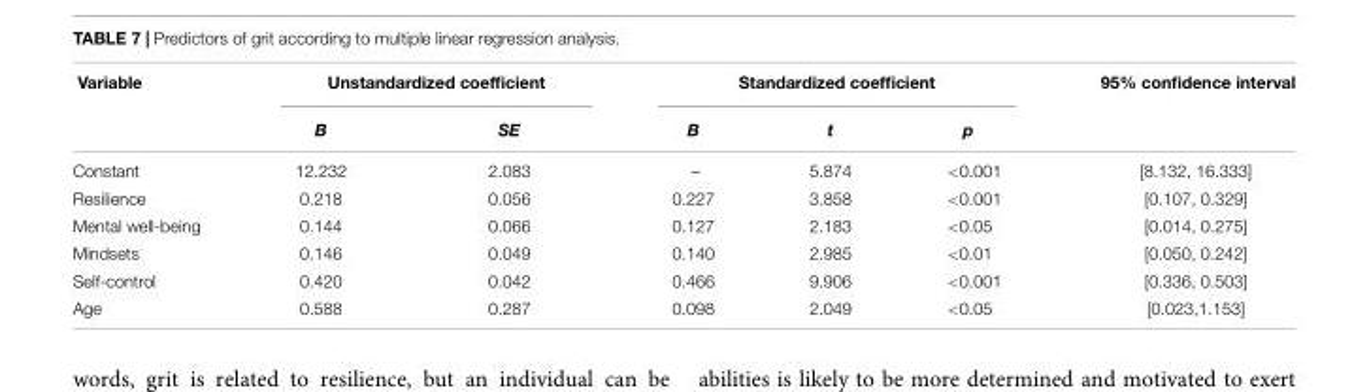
<table><thead><tr><td rowspan="2">Variable</td><td colspan="2">Unstandardized coefficient</td><td colspan="3">Standardized coefficient</td><td rowspan="2">95% confidence interval</td></tr><tr><td>B</td><td>SE</td><td>B</td><td>t</td><td>p</td></tr></thead><tbody><tr><td>Constant</td><td>12.232</td><td>2.083</td><td>–</td><td>5.874</td><td>&lt;0.001</td><td>[8.132, 16.333]</td></tr><tr><td>Resilience</td><td>0.218</td><td>0.056</td><td>0.227</td><td>3.858</td><td>&lt;0.001</td><td>[0.107, 0.329]</td></tr><tr><td>Mental well-being</td><td>0.144</td><td>0.066</td><td>0.127</td><td>2.183</td><td>&lt;0.05</td><td>[0.014, 0.275]</td></tr><tr><td>Mindsets</td><td>0.146</td><td>0.049</td><td>0.140</td><td>2.985</td><td>&lt;0.01</td><td>[0.050, 0.242]</td></tr><tr><td>Self-control</td><td>0.420</td><td>0.042</td><td>0.466</td><td>9.906</td><td>&lt;0.001</td><td>[0.336, 0.503]</td></tr><tr><td>Age</td><td>0.588</td><td>0.287</td><td>0.098</td><td>2.049</td><td>&lt;0.05</td><td>[0.023,1.153]</td></tr></tbody></table>